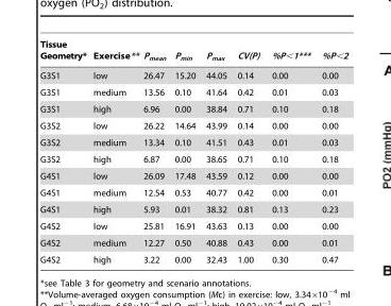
<table><thead><tr><td>Tissue Geometry*</td><td>Exercise**</td><td>P<sub>mean</sub></td><td>P<sub>min</sub></td><td>P<sub>max</sub></td><td>CV(P)</td><td>%P&lt;1***</td><td>%P&lt;2</td></tr></thead><tbody><tr><td>G3S1</td><td>low</td><td>26.47</td><td>15.20</td><td>44.05</td><td>0.14</td><td>0.00</td><td>0.00</td></tr><tr><td>G3S1</td><td>medium</td><td>13.56</td><td>0.10</td><td>41.64</td><td>0.42</td><td>0.01</td><td>0.03</td></tr><tr><td>G3S1</td><td>high</td><td>6.96</td><td>0.00</td><td>38.84</td><td>0.71</td><td>0.10</td><td>0.18</td></tr><tr><td>G3S2</td><td>low</td><td>26.22</td><td>14.64</td><td>43.99</td><td>0.14</td><td>0.00</td><td>0.00</td></tr><tr><td>G3S2</td><td>medium</td><td>13.34</td><td>0.10</td><td>41.51</td><td>0.43</td><td>0.01</td><td>0.03</td></tr><tr><td>G3S2</td><td>high</td><td>6.87</td><td>0.00</td><td>38.65</td><td>0.71</td><td>0.10</td><td>0.18</td></tr><tr><td>G4S1</td><td>low</td><td>26.09</td><td>17.48</td><td>43.59</td><td>0.12</td><td>0.00</td><td>0.00</td></tr><tr><td>G4S1</td><td>medium</td><td>12.54</td><td>0.53</td><td>40.77</td><td>0.42</td><td>0.00</td><td>0.01</td></tr><tr><td>G4S1</td><td>high</td><td>5.93</td><td>0.01</td><td>38.32</td><td>0.81</td><td>0.13</td><td>0.23</td></tr><tr><td>G4S2</td><td>low</td><td>25.81</td><td>16.91</td><td>43.63</td><td>0.13</td><td>0.00</td><td>0.00</td></tr><tr><td>G4S2</td><td>medium</td><td>12.27</td><td>0.50</td><td>40.88</td><td>0.43</td><td>0.00</td><td>0.01</td></tr><tr><td>G4S2</td><td>high</td><td>3.22</td><td>0.00</td><td>32.43</td><td>1.00</td><td>0.30</td><td>0.47</td></tr></tbody></table>